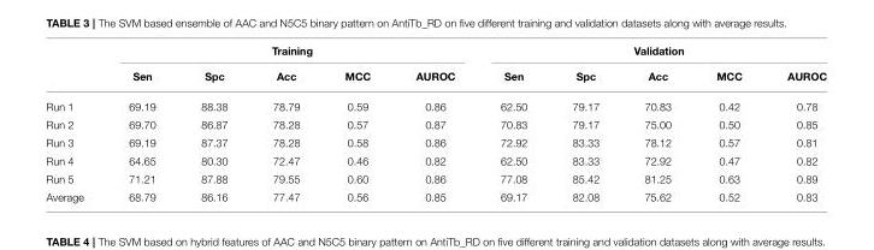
<table><thead><tr><td rowspan="2"></td><td colspan="5">Training</td><td colspan="5">Validation</td></tr><tr><td>Sen</td><td>Spc</td><td>Acc</td><td>MCC</td><td>AUROC</td><td>Sen</td><td>Spc</td><td>Acc</td><td>MCC</td><td>AUROC</td></tr></thead><tbody><tr><td>Run 1</td><td>69.19</td><td>88.38</td><td>78.79</td><td>0.59</td><td>0.86</td><td>62.50</td><td>79.17</td><td>70.83</td><td>0.42</td><td>0.78</td></tr><tr><td>Run 2</td><td>69.70</td><td>86.87</td><td>78.28</td><td>0.57</td><td>0.87</td><td>70.83</td><td>79.17</td><td>75.00</td><td>0.50</td><td>0.85</td></tr><tr><td>Run 3</td><td>69.19</td><td>87.37</td><td>78.28</td><td>0.58</td><td>0.86</td><td>72.92</td><td>83.33</td><td>78.12</td><td>0.57</td><td>0.81</td></tr><tr><td>Run 4</td><td>64.65</td><td>80.30</td><td>72.47</td><td>0.46</td><td>0.82</td><td>62.50</td><td>83.33</td><td>72.92</td><td>0.47</td><td>0.82</td></tr><tr><td>Run 5</td><td>71.21</td><td>87.88</td><td>79.55</td><td>0.60</td><td>0.86</td><td>77.08</td><td>85.42</td><td>81.25</td><td>0.63</td><td>0.89</td></tr><tr><td>Average</td><td>68.79</td><td>86.16</td><td>77.47</td><td>0.56</td><td>0.85</td><td>69.17</td><td>82.08</td><td>75.62</td><td>0.52</td><td>0.83</td></tr></tbody></table>